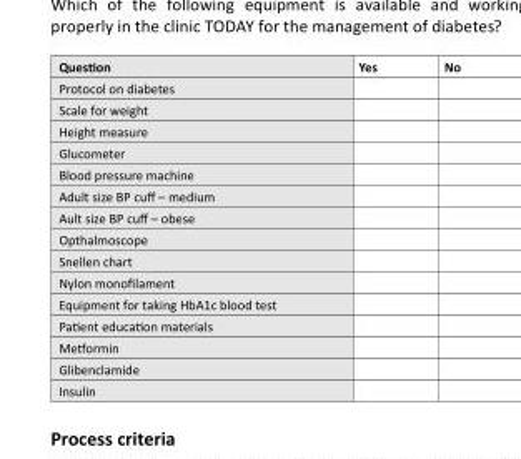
<table><thead><tr><td>Question</td><td>Yes</td><td>No</td></tr></thead><tbody><tr><td colspan="3">Protocol on diabetes</td></tr><tr><td colspan="3">Scale for weight</td></tr><tr><td colspan="3">Height measure</td></tr><tr><td colspan="3">Glucometer</td></tr><tr><td colspan="3">Blood pressure machine</td></tr><tr><td colspan="3">Adult size BP cuff – medium</td></tr><tr><td colspan="3">Ault size BP cuff – obese</td></tr><tr><td colspan="3">Opthalmoscope</td></tr><tr><td colspan="3">Snellen chart</td></tr><tr><td colspan="3">Nylon monofilament</td></tr><tr><td colspan="3">Equipment for taking HbA1c blood test</td></tr><tr><td colspan="3">Patient education materials</td></tr><tr><td colspan="3">Metformin</td></tr><tr><td colspan="3">Glibenclamide</td></tr><tr><td>Insulin</td><td></td><td></td></tr></tbody></table>